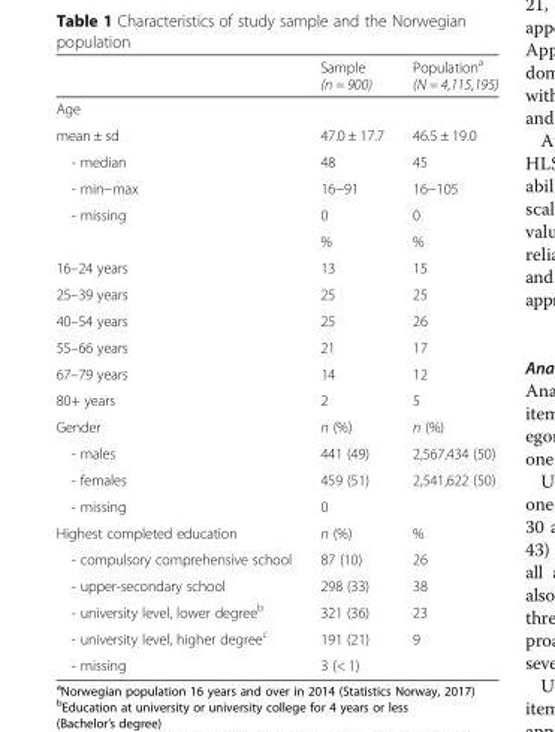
<table><thead><tr><td></td><td>Sample (n = 900)</td><td>Population<sup>a</sup> (N = 4,115,195)</td></tr></thead><tbody><tr><td colspan="3">Age</td></tr><tr><td>mean ± sd</td><td>47.0 ± 17.7</td><td>46.5 ± 19.0</td></tr><tr><td>- median</td><td>48</td><td>45</td></tr><tr><td>- min−max</td><td>16−91</td><td>16−105</td></tr><tr><td rowspan="2">- missing</td><td>0</td><td>0</td></tr><tr><td>%</td><td>%</td></tr><tr><td>16–24 years</td><td>13</td><td>15</td></tr><tr><td>25–39 years</td><td>25</td><td>25</td></tr><tr><td>40–54 years</td><td>25</td><td>26</td></tr><tr><td>55–66 years</td><td>21</td><td>17</td></tr><tr><td>67–79 years</td><td>14</td><td>12</td></tr><tr><td>80+ years</td><td>2</td><td>5</td></tr><tr><td>Gender</td><td>n (%)</td><td>n (%)</td></tr><tr><td>- males</td><td>441 (49)</td><td>2,567,434 (50)</td></tr><tr><td>- females</td><td>459 (51)</td><td>2,541,622 (50)</td></tr><tr><td>- missing</td><td>0</td><td></td></tr><tr><td>Highest completed education</td><td>n (%)</td><td>%</td></tr><tr><td>- compulsory comprehensive school</td><td>87 (10)</td><td>26</td></tr><tr><td>- upper-secondary school</td><td>298 (33)</td><td>38</td></tr><tr><td>- university level, lower degree<sup>b</sup></td><td>321 (36)</td><td>23</td></tr><tr><td>- university level, higher degree<sup>c</sup></td><td>191 (21)</td><td>9</td></tr><tr><td>- missing</td><td>3 (&lt; 1)</td><td></td></tr></tbody></table>